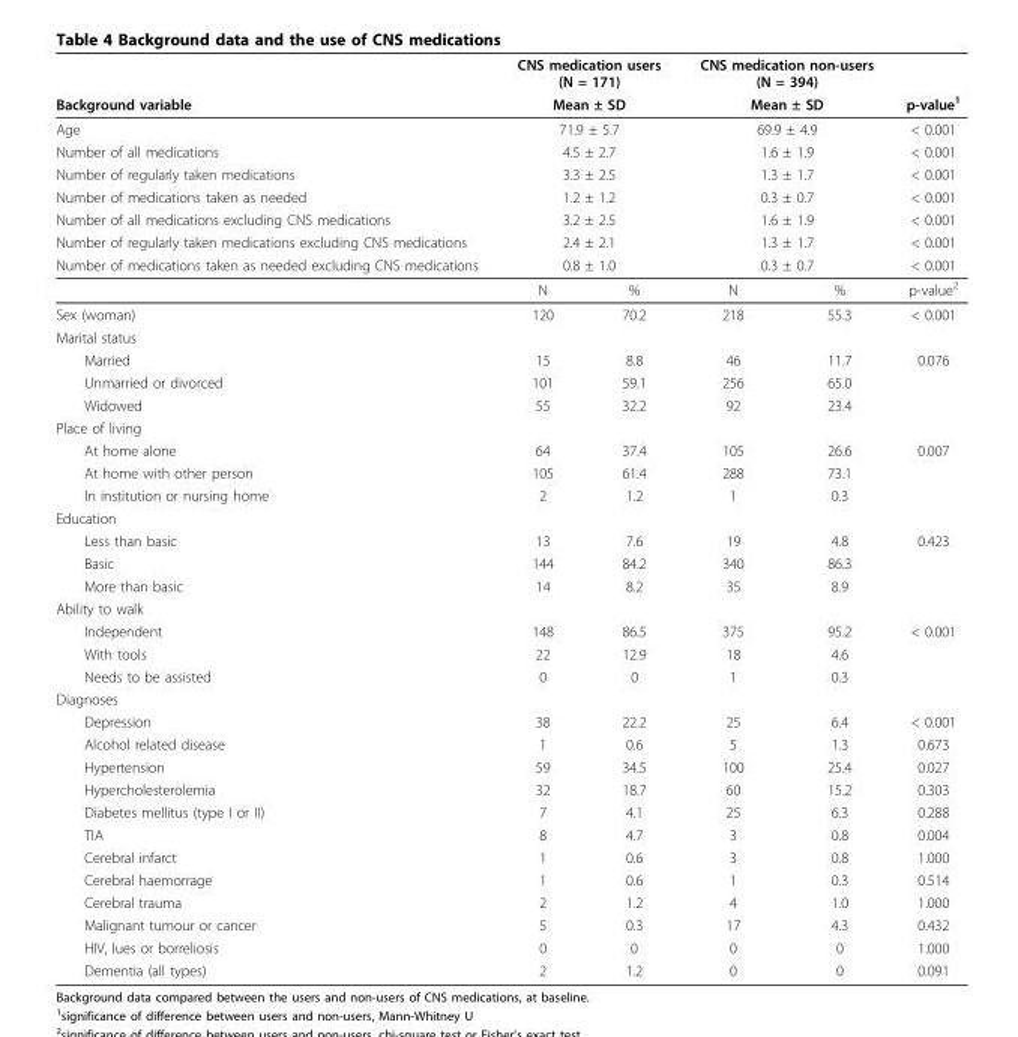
<table><thead><tr><td rowspan="2">Background variable</td><td rowspan="2" colspan="2">CNS medication users (N = 171) Mean ± SD</td><td rowspan="2" colspan="2">CNS medication non-users (N = 394) Mean ± SD</td><td rowspan="2">p-value<sup>1</sup></td></tr><tr></tr></thead><tbody><tr><td>Age</td><td colspan="2">71.9 ± 5.7</td><td colspan="2">69.9 ± 4.9</td><td>&lt; 0.001</td></tr><tr><td>Number of all medications</td><td colspan="2">4.5 ± 2.7</td><td colspan="2">1.6 ± 1.9</td><td>&lt; 0.001</td></tr><tr><td>Number of regularly taken medications</td><td colspan="2">3.3 ± 2.5</td><td colspan="2">1.3 ± 1.7</td><td>&lt; 0.001</td></tr><tr><td>Number of medications taken as needed</td><td colspan="2">1.2 ± 1.2</td><td colspan="2">0.3 ± 0.7</td><td>&lt; 0.001</td></tr><tr><td>Number of all medications excluding CNS medications</td><td colspan="2">3.2 ± 2.5</td><td colspan="2">1.6 ± 1.9</td><td>&lt; 0.001</td></tr><tr><td>Number of regularly taken medications excluding CNS medications</td><td colspan="2">2.4 ± 2.1</td><td colspan="2">1.3 ± 1.7</td><td>&lt; 0.001</td></tr><tr><td rowspan="2">Number of medications taken as needed excluding CNS medications</td><td colspan="2">0.8 ± 1.0</td><td colspan="2">0.3 ± 0.7</td><td>&lt; 0.001</td></tr><tr><td>N</td><td>%</td><td>N</td><td>%</td><td>p-value<sup>2</sup></td></tr><tr><td>Sex (woman)</td><td>120</td><td>70.2</td><td>218</td><td>55.3</td><td>&lt; 0.001</td></tr><tr><td colspan="6">Marital status</td></tr><tr><td>Married</td><td>15</td><td>8.8</td><td>46</td><td>11.7</td><td>0.076</td></tr><tr><td>Unmarried or divorced</td><td>101</td><td>59.1</td><td>256</td><td>65.0</td><td></td></tr><tr><td>Widowed</td><td>55</td><td>32.2</td><td>92</td><td>23.4</td><td></td></tr><tr><td colspan="6">Place of living</td></tr><tr><td>At home alone</td><td>64</td><td>37.4</td><td>105</td><td>26.6</td><td>0.007</td></tr><tr><td>At home with other person</td><td>105</td><td>61.4</td><td>288</td><td>73.1</td><td></td></tr><tr><td>In institution or nursing home</td><td>2</td><td>1.2</td><td>1</td><td>0.3</td><td></td></tr><tr><td colspan="6">Education</td></tr><tr><td>Less than basic</td><td>13</td><td>7.6</td><td>19</td><td>4.8</td><td>0.423</td></tr><tr><td>Basic</td><td>144</td><td>84.2</td><td>340</td><td>86.3</td><td></td></tr><tr><td>More than basic</td><td>14</td><td>8.2</td><td>35</td><td>8.9</td><td></td></tr><tr><td colspan="6">Ability to walk</td></tr><tr><td>Independent</td><td>148</td><td>86.5</td><td>375</td><td>95.2</td><td>&lt; 0.001</td></tr><tr><td>With tools</td><td>22</td><td>12.9</td><td>18</td><td>4.6</td><td></td></tr><tr><td>Needs to be assisted</td><td>0</td><td>0</td><td>1</td><td>0.3</td><td></td></tr><tr><td colspan="6">Diagnoses</td></tr><tr><td>Depression</td><td>38</td><td>22.2</td><td>25</td><td>6.4</td><td>&lt; 0.001</td></tr><tr><td>Alcohol related disease</td><td>1</td><td>0.6</td><td>5</td><td>1.3</td><td>0.673</td></tr><tr><td>Hypertension</td><td>59</td><td>34.5</td><td>100</td><td>25.4</td><td>0.027</td></tr><tr><td>Hypercholesterolemia</td><td>32</td><td>18.7</td><td>60</td><td>15.2</td><td>0.303</td></tr><tr><td>Diabetes mellitus (type I or II)</td><td>7</td><td>4.1</td><td>25</td><td>6.3</td><td>0.288</td></tr><tr><td>TIA</td><td>8</td><td>4.7</td><td>3</td><td>0.8</td><td>0.004</td></tr><tr><td>Cerebral infarct</td><td>1</td><td>0.6</td><td>3</td><td>0.8</td><td>1.000</td></tr><tr><td>Cerebral haemorrage</td><td>1</td><td>0.6</td><td>1</td><td>0.3</td><td>0.514</td></tr><tr><td>Cerebral trauma</td><td>2</td><td>1.2</td><td>4</td><td>1.0</td><td>1.000</td></tr><tr><td>Malignant tumour or cancer</td><td>5</td><td>0.3</td><td>17</td><td>4.3</td><td>0.432</td></tr><tr><td>HIV, lues or borreliosis</td><td>0</td><td>0</td><td>0</td><td>0</td><td>1.000</td></tr><tr><td>Dementia (all types)</td><td>2</td><td>1.2</td><td>0</td><td>0</td><td>0.091</td></tr></tbody></table>